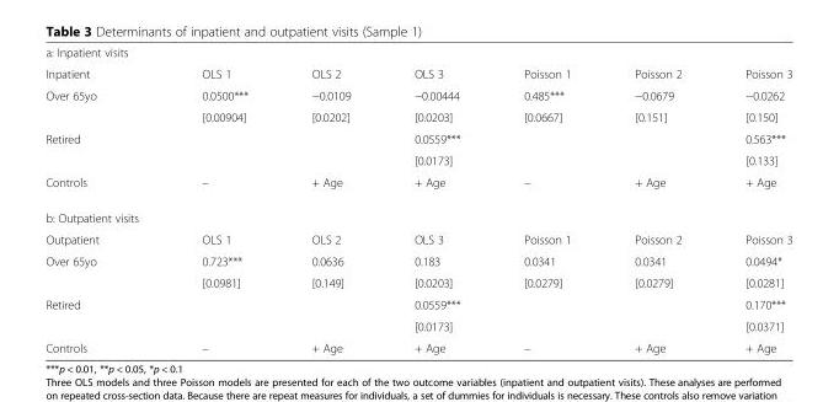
<table><tbody><tr><td colspan="7">a: Inpatient visits</td></tr><tr><td>Inpatient</td><td>OLS 1</td><td>OLS 2</td><td>OLS 3</td><td>Poisson 1</td><td>Poisson 2</td><td>Poisson 3</td></tr><tr><td rowspan="2">Over 65yo</td><td>0.0500***</td><td>−0.0109</td><td>−0.00444</td><td>0.485***</td><td>−0.0679</td><td>−0.0262</td></tr><tr><td>[0.00904]</td><td>[0.0202]</td><td>[0.0203]</td><td>[0.0667]</td><td>[0.151]</td><td>[0.150]</td></tr><tr><td rowspan="2">Retired</td><td></td><td></td><td>0.0559***</td><td></td><td></td><td>0.563***</td></tr><tr><td></td><td></td><td>[0.0173]</td><td></td><td></td><td>[0.133]</td></tr><tr><td>Controls</td><td>–</td><td>+ Age</td><td>+ Age</td><td>–</td><td>+ Age</td><td>+ Age</td></tr><tr><td colspan="7">b: Outpatient visits</td></tr><tr><td>Outpatient</td><td>OLS 1</td><td>OLS 2</td><td>OLS 3</td><td>Poisson 1</td><td>Poisson 2</td><td>Poisson 3</td></tr><tr><td rowspan="2">Over 65yo</td><td>0.723***</td><td>0.0636</td><td>0.183</td><td>0.0341</td><td>0.0341</td><td>0.0494*</td></tr><tr><td>[0.0981]</td><td>[0.149]</td><td>[0.0203]</td><td>[0.0279]</td><td>[0.0279]</td><td>[0.0281]</td></tr><tr><td rowspan="2">Retired</td><td></td><td></td><td>0.0559***</td><td></td><td></td><td>0.170***</td></tr><tr><td></td><td></td><td>[0.0173]</td><td></td><td></td><td>[0.0371]</td></tr><tr><td>Controls</td><td>–</td><td>+ Age</td><td>+ Age</td><td>–</td><td>+ Age</td><td>+ Age</td></tr></tbody></table>